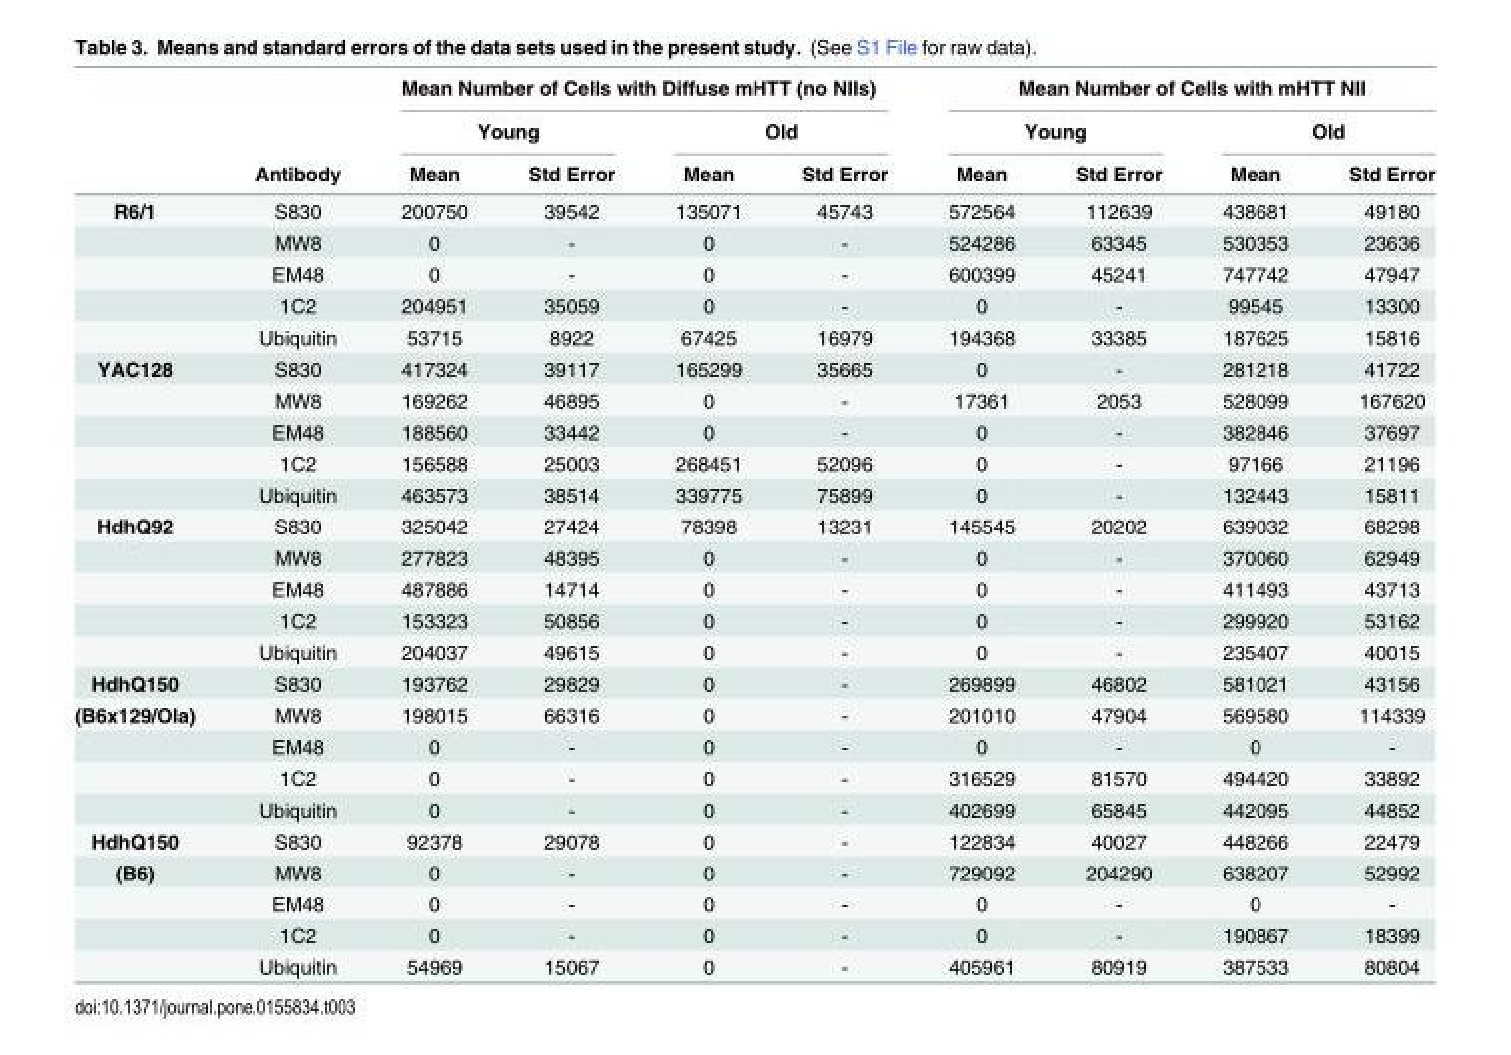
<table><thead><tr><td rowspan="3"></td><td rowspan="3">Antibody</td><td colspan="4">Mean Number of Cells with Diffuse mHTT (no NIIs)</td><td colspan="4">Mean Number of Cells with mHTT NII</td></tr><tr><td colspan="2">Young</td><td colspan="2">Old</td><td colspan="2">Young</td><td colspan="2">Old</td></tr><tr><td>Mean</td><td>Std Error</td><td>Mean</td><td>Std Error</td><td>Mean</td><td>Std Error</td><td>Mean</td><td>Std Error</td></tr></thead><tbody><tr><td rowspan="5">R6/1</td><td>S830</td><td>200750</td><td>39542</td><td>135071</td><td>45743</td><td>572564</td><td>112639</td><td>438681</td><td>49180</td></tr><tr><td>MW8</td><td>0</td><td>-</td><td>0</td><td>-</td><td>524286</td><td>63345</td><td>530353</td><td>23636</td></tr><tr><td>EM48</td><td>0</td><td>-</td><td>0</td><td>-</td><td>600399</td><td>45241</td><td>747742</td><td>47947</td></tr><tr><td>1C2</td><td>204951</td><td>35059</td><td>0</td><td>-</td><td>0</td><td>-</td><td>99545</td><td>13300</td></tr><tr><td>Ubiquitin</td><td>53715</td><td>8922</td><td>67425</td><td>16979</td><td>194368</td><td>33385</td><td>187625</td><td>15816</td></tr><tr><td rowspan="5">YAC128</td><td>S830</td><td>417324</td><td>39117</td><td>165299</td><td>35665</td><td>0</td><td>-</td><td>281218</td><td>41722</td></tr><tr><td>MW8</td><td>169262</td><td>46895</td><td>0</td><td>-</td><td>17361</td><td>2053</td><td>528099</td><td>167620</td></tr><tr><td>EM48</td><td>188560</td><td>33442</td><td>0</td><td>-</td><td>0</td><td>-</td><td>382846</td><td>37697</td></tr><tr><td>1C2</td><td>156588</td><td>25003</td><td>268451</td><td>52096</td><td>0</td><td>-</td><td>97166</td><td>21196</td></tr><tr><td>Ubiquitin</td><td>463573</td><td>38514</td><td>339775</td><td>75899</td><td>0</td><td>-</td><td>132443</td><td>15811</td></tr><tr><td rowspan="5">HdhQ92</td><td>S830</td><td>325042</td><td>27424</td><td>78398</td><td>13231</td><td>145545</td><td>20202</td><td>639032</td><td>68298</td></tr><tr><td>MW8</td><td>277823</td><td>48395</td><td>0</td><td>-</td><td>0</td><td>-</td><td>370060</td><td>62949</td></tr><tr><td>EM48</td><td>487886</td><td>14714</td><td>0</td><td>-</td><td>0</td><td>-</td><td>411493</td><td>43713</td></tr><tr><td>1C2</td><td>153323</td><td>50856</td><td>0</td><td>-</td><td>0</td><td>-</td><td>299920</td><td>53162</td></tr><tr><td>Ubiquitin</td><td>204037</td><td>49615</td><td>0</td><td>-</td><td>0</td><td>-</td><td>235407</td><td>40015</td></tr><tr><td>HdhQ150</td><td>S830</td><td>193762</td><td>29829</td><td>0</td><td>-</td><td>269899</td><td>46802</td><td>581021</td><td>43156</td></tr><tr><td rowspan="4">(B6x129/Ola)</td><td>MW8</td><td>198015</td><td>66316</td><td>0</td><td>-</td><td>201010</td><td>47904</td><td>569580</td><td>114339</td></tr><tr><td>EM48</td><td>0</td><td>-</td><td>0</td><td>-</td><td>0</td><td>-</td><td>0</td><td>-</td></tr><tr><td>1C2</td><td>0</td><td>-</td><td>0</td><td>-</td><td>316529</td><td>81570</td><td>494420</td><td>33892</td></tr><tr><td>Ubiquitin</td><td>0</td><td>-</td><td>0</td><td>-</td><td>402699</td><td>65845</td><td>442095</td><td>44852</td></tr><tr><td>HdhQ150</td><td>S830</td><td>92378</td><td>29078</td><td>0</td><td>-</td><td>122834</td><td>40027</td><td>448266</td><td>22479</td></tr><tr><td rowspan="4">(B6)</td><td>MW8</td><td>0</td><td>-</td><td>0</td><td>-</td><td>729092</td><td>204290</td><td>638207</td><td>52992</td></tr><tr><td>EM48</td><td>0</td><td>-</td><td>0</td><td>-</td><td>0</td><td>-</td><td>0</td><td>-</td></tr><tr><td>1C2</td><td>0</td><td>-</td><td>0</td><td>-</td><td>0</td><td>-</td><td>190867</td><td>18399</td></tr><tr><td>Ubiquitin</td><td>54969</td><td>15067</td><td>0</td><td>-</td><td>405961</td><td>80919</td><td>387533</td><td>80804</td></tr></tbody></table>